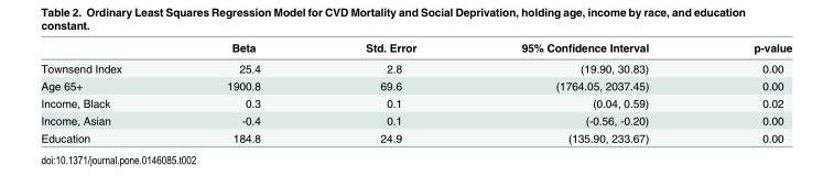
<table><thead><tr><td></td><td>Beta</td><td>Std. Error</td><td>95% Confidence Interval</td><td>p-value</td></tr></thead><tbody><tr><td>Townsend Index</td><td>25.4</td><td>2.8</td><td>(19.90, 30.83)</td><td>0.00</td></tr><tr><td>Age 65+</td><td>1900.8</td><td>69.6</td><td>(1764.05, 2037.45)</td><td>0.00</td></tr><tr><td>Income, Black</td><td>0.3</td><td>0.1</td><td>(0.04, 0.59)</td><td>0.02</td></tr><tr><td>Income, Asian</td><td>-0.4</td><td>0.1</td><td>(-0.56, -0.20)</td><td>0.00</td></tr><tr><td>Education</td><td>184.8</td><td>24.9</td><td>(135.90, 233.67)</td><td>0.00</td></tr></tbody></table>